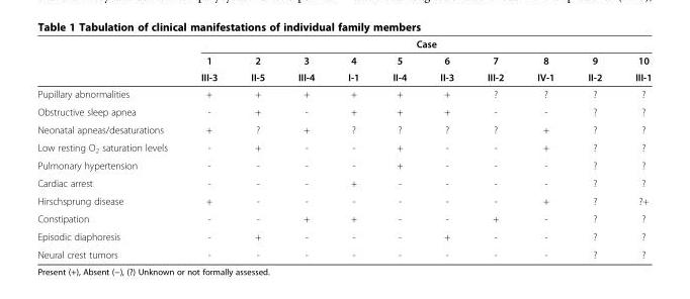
<table><thead><tr><td rowspan="3"></td><td colspan="10">Case</td></tr><tr><td rowspan="2">1 III-3</td><td rowspan="2">2 II-5</td><td rowspan="2">3 III-4</td><td rowspan="2">4 I-1</td><td rowspan="2">5 II-4</td><td rowspan="2">6 II-3</td><td rowspan="2">7 III-2</td><td rowspan="2">8 IV-1</td><td rowspan="2">9 II-2</td><td rowspan="2">10 III-1</td></tr><tr></tr></thead><tbody><tr><td>Pupillary abnormalities</td><td>+</td><td>+</td><td>+</td><td>+</td><td>+</td><td>+</td><td>?</td><td>?</td><td>?</td><td>?</td></tr><tr><td>Obstructive sleep apnea</td><td>-</td><td>+</td><td>-</td><td>+</td><td>+</td><td>+</td><td>-</td><td>-</td><td>?</td><td>?</td></tr><tr><td>Neonatal apneas/desaturations</td><td>+</td><td>?</td><td>+</td><td>?</td><td>?</td><td>?</td><td>?</td><td>+</td><td>?</td><td>?</td></tr><tr><td>Low resting O<sub>2</sub> saturation levels</td><td>-</td><td>+</td><td>-</td><td>-</td><td>+</td><td>-</td><td>-</td><td>+</td><td>?</td><td>?</td></tr><tr><td>Pulmonary hypertension</td><td>-</td><td>-</td><td>-</td><td>-</td><td>+</td><td>-</td><td>-</td><td>-</td><td>?</td><td>?</td></tr><tr><td>Cardiac arrest</td><td>-</td><td>-</td><td>-</td><td>+</td><td>-</td><td>-</td><td>-</td><td>-</td><td>?</td><td>?</td></tr><tr><td>Hirschsprung disease</td><td>+</td><td>-</td><td>-</td><td>-</td><td>-</td><td>-</td><td>-</td><td>+</td><td>?</td><td>?+</td></tr><tr><td>Constipation</td><td>-</td><td>-</td><td>+</td><td>+</td><td>-</td><td>-</td><td>+</td><td>-</td><td>?</td><td>?</td></tr><tr><td>Episodic diaphoresis</td><td>-</td><td>+</td><td>-</td><td>-</td><td>-</td><td>+</td><td>-</td><td>-</td><td>?</td><td>?</td></tr><tr><td>Neural crest tumors</td><td>-</td><td>-</td><td>-</td><td>-</td><td>-</td><td>-</td><td>-</td><td>-</td><td>?</td><td>?</td></tr></tbody></table>